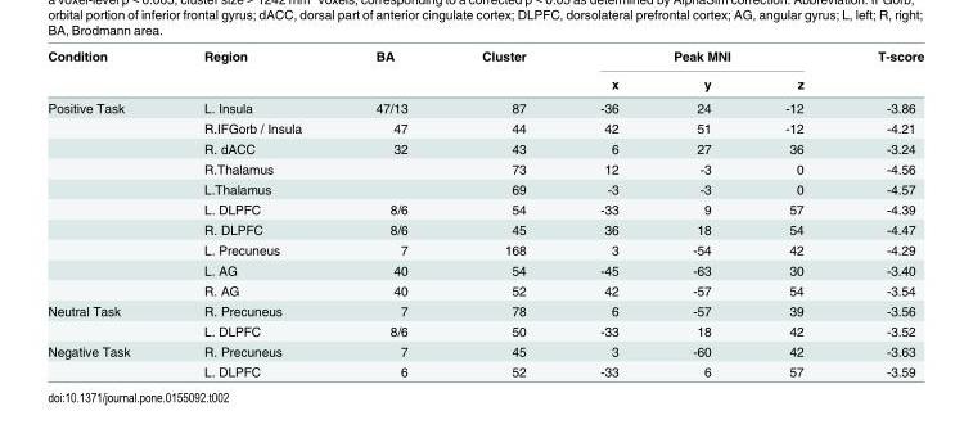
<table><thead><tr><td rowspan="2">Condition</td><td rowspan="2">Region</td><td rowspan="2">BA</td><td rowspan="2">Cluster</td><td colspan="3">Peak MNI</td><td rowspan="2">T-score</td></tr><tr><td>x</td><td>y</td><td>z</td></tr></thead><tbody><tr><td rowspan="10">Positive Task</td><td>L. Insula</td><td>47/13</td><td>87</td><td>-36</td><td>24</td><td>-12</td><td>-3.86</td></tr><tr><td>R.IFGorb / Insula</td><td>47</td><td>44</td><td>42</td><td>51</td><td>-12</td><td>-4.21</td></tr><tr><td>R. dACC</td><td>32</td><td>43</td><td>6</td><td>27</td><td>36</td><td>-3.24</td></tr><tr><td>R.Thalamus</td><td></td><td>73</td><td>12</td><td>-3</td><td>0</td><td>-4.56</td></tr><tr><td>L.Thalamus</td><td></td><td>69</td><td>-3</td><td>-3</td><td>0</td><td>-4.57</td></tr><tr><td>L. DLPFC</td><td>8/6</td><td>54</td><td>-33</td><td>9</td><td>57</td><td>-4.39</td></tr><tr><td>R. DLPFC</td><td>8/6</td><td>45</td><td>36</td><td>18</td><td>54</td><td>-4.47</td></tr><tr><td>L. Precuneus</td><td>7</td><td>168</td><td>3</td><td>-54</td><td>42</td><td>-4.29</td></tr><tr><td>L. AG</td><td>40</td><td>54</td><td>-45</td><td>-63</td><td>30</td><td>-3.40</td></tr><tr><td>R. AG</td><td>40</td><td>52</td><td>42</td><td>-57</td><td>54</td><td>-3.54</td></tr><tr><td rowspan="2">Neutral Task</td><td>R. Precuneus</td><td>7</td><td>78</td><td>6</td><td>-57</td><td>39</td><td>-3.56</td></tr><tr><td>L. DLPFC</td><td>8/6</td><td>50</td><td>-33</td><td>18</td><td>42</td><td>-3.52</td></tr><tr><td rowspan="2">Negative Task</td><td>R. Precuneus</td><td>7</td><td>45</td><td>3</td><td>-60</td><td>42</td><td>-3.63</td></tr><tr><td>L. DLPFC</td><td>6</td><td>52</td><td>-33</td><td>6</td><td>57</td><td>-3.59</td></tr></tbody></table>